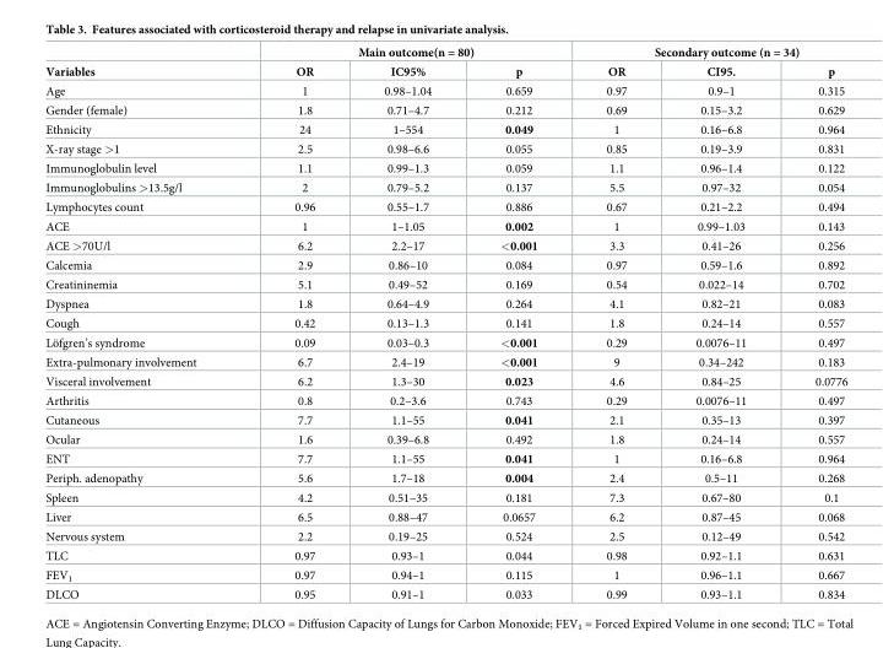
<table><thead><tr><td rowspan="2">Variables</td><td colspan="3">Main outcome(n = 80)</td><td colspan="3">Secondary outcome (n = 34)</td></tr><tr><td>OR</td><td>IC95%</td><td>p</td><td>OR</td><td>CI95.</td><td>p</td></tr></thead><tbody><tr><td>Age</td><td>1</td><td>0.98–1.04</td><td>0.659</td><td>0.97</td><td>0.9–1</td><td>0.315</td></tr><tr><td>Gender (female)</td><td>1.8</td><td>0.71–4.7</td><td>0.212</td><td>0.69</td><td>0.15–3.2</td><td>0.629</td></tr><tr><td>Ethnicity</td><td>24</td><td>1–554</td><td>0.049</td><td>1</td><td>0.16–6.8</td><td>0.964</td></tr><tr><td>X-ray stage &gt;1</td><td>2.5</td><td>0.98–6.6</td><td>0.055</td><td>0.85</td><td>0.19–3.9</td><td>0.831</td></tr><tr><td>Immunoglobulin level</td><td>1.1</td><td>0.99–1.3</td><td>0.059</td><td>1.1</td><td>0.96–1.4</td><td>0.122</td></tr><tr><td>Immunoglobulins &gt;13.5g/l</td><td>2</td><td>0.79–5.2</td><td>0.137</td><td>5.5</td><td>0.97–32</td><td>0.054</td></tr><tr><td>Lymphocytes count</td><td>0.96</td><td>0.55–1.7</td><td>0.886</td><td>0.67</td><td>0.21–2.2</td><td>0.494</td></tr><tr><td>ACE</td><td>1</td><td>1–1.05</td><td>0.002</td><td>1</td><td>0.99–1.03</td><td>0.143</td></tr><tr><td>ACE &gt;70U/l</td><td>6.2</td><td>2.2–17</td><td>&lt;0.001</td><td>3.3</td><td>0.41–26</td><td>0.256</td></tr><tr><td>Calcemia</td><td>2.9</td><td>0.86–10</td><td>0.084</td><td>0.97</td><td>0.59–1.6</td><td>0.892</td></tr><tr><td>Creatininemia</td><td>5.1</td><td>0.49–52</td><td>0.169</td><td>0.54</td><td>0.022–14</td><td>0.702</td></tr><tr><td>Dyspnea</td><td>1.8</td><td>0.64–4.9</td><td>0.264</td><td>4.1</td><td>0.82–21</td><td>0.083</td></tr><tr><td>Cough</td><td>0.42</td><td>0.13–1.3</td><td>0.141</td><td>1.8</td><td>0.24–14</td><td>0.557</td></tr><tr><td>Lo¨fgren’s syndrome</td><td>0.09</td><td>0.03–0.3</td><td>&lt;0.001</td><td>0.29</td><td>0.0076–11</td><td>0.497</td></tr><tr><td>Extra-pulmonary involvement</td><td>6.7</td><td>2.4–19</td><td>&lt;0.001</td><td>9</td><td>0.34–242</td><td>0.183</td></tr><tr><td>Visceral involvement</td><td>6.2</td><td>1.3–30</td><td>0.023</td><td>4.6</td><td>0.84–25</td><td>0.0776</td></tr><tr><td>Arthritis</td><td>0.8</td><td>0.2–3.6</td><td>0.743</td><td>0.29</td><td>0.0076–11</td><td>0.497</td></tr><tr><td>Cutaneous</td><td>7.7</td><td>1.1–55</td><td>0.041</td><td>2.1</td><td>0.35–13</td><td>0.397</td></tr><tr><td>Ocular</td><td>1.6</td><td>0.39–6.8</td><td>0.492</td><td>1.8</td><td>0.24–14</td><td>0.557</td></tr><tr><td>ENT</td><td>7.7</td><td>1.1–55</td><td>0.041</td><td>1</td><td>0.16–6.8</td><td>0.964</td></tr><tr><td>Periph. adenopathy</td><td>5.6</td><td>1.7–18</td><td>0.004</td><td>2.4</td><td>0.5–11</td><td>0.268</td></tr><tr><td>Spleen</td><td>4.2</td><td>0.51–35</td><td>0.181</td><td>7.3</td><td>0.67–80</td><td>0.1</td></tr><tr><td>Liver</td><td>6.5</td><td>0.88–47</td><td>0.0657</td><td>6.2</td><td>0.87–45</td><td>0.068</td></tr><tr><td>Nervous system</td><td>2.2</td><td>0.19–25</td><td>0.524</td><td>2.5</td><td>0.12–49</td><td>0.542</td></tr><tr><td>TLC</td><td>0.97</td><td>0.93–1</td><td>0.044</td><td>0.98</td><td>0.92–1.1</td><td>0.631</td></tr><tr><td>FEV<sub>1</sub></td><td>0.97</td><td>0.94–1</td><td>0.115</td><td>1</td><td>0.96–1.1</td><td>0.667</td></tr><tr><td>DLCO</td><td>0.95</td><td>0.91–1</td><td>0.033</td><td>0.99</td><td>0.93–1.1</td><td>0.834</td></tr></tbody></table>